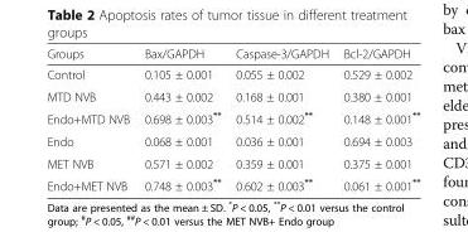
<table><thead><tr><td>Groups</td><td>Bax/GAPDH</td><td>Caspase-3/GAPDH</td><td>Bcl-2/GAPDH</td></tr></thead><tbody><tr><td>Control</td><td>0.105 ± 0.001</td><td>0.055 ± 0.002</td><td>0.529 ± 0.002</td></tr><tr><td>MTD NVB</td><td>0.443 ± 0.002</td><td>0.168 ± 0.001</td><td>0.380 ± 0.001</td></tr><tr><td>Endo+MTD NVB</td><td>0.698 ± 0.003**</td><td>0.514 ± 0.002**</td><td>0.148 ± 0.001**</td></tr><tr><td>Endo</td><td>0.068 ± 0.001</td><td>0.036 ± 0.001</td><td>0.694 ± 0.003</td></tr><tr><td>MET NVB</td><td>0.571 ± 0.002</td><td>0.359 ± 0.001</td><td>0.375 ± 0.001</td></tr><tr><td>Endo+MET NVB</td><td>0.748 ± 0.003**</td><td>0.602 ± 0.003**</td><td>0.061 ± 0.001**</td></tr></tbody></table>